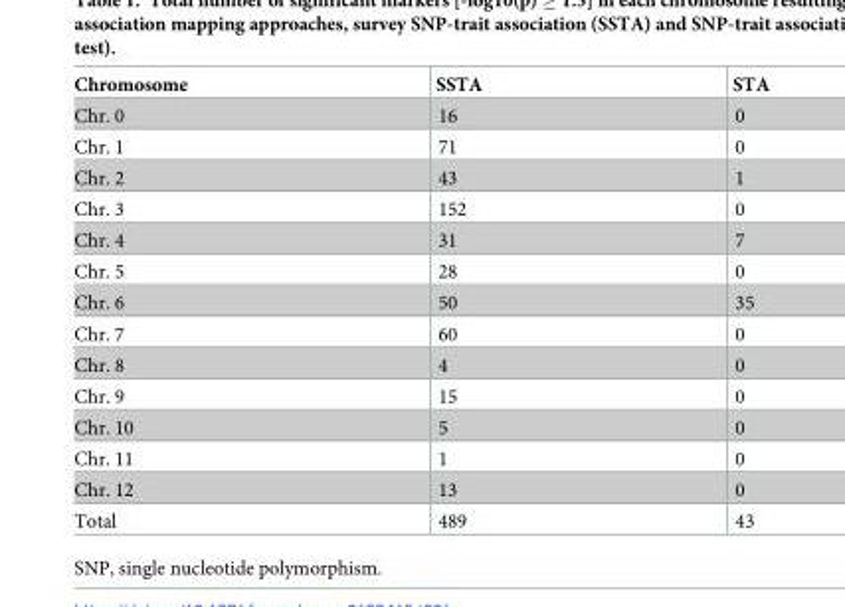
<table><thead><tr><td>Chromosome</td><td>SSTA</td><td>STA</td></tr></thead><tbody><tr><td>Chr. 0</td><td>16</td><td>0</td></tr><tr><td>Chr. 1</td><td>71</td><td>0</td></tr><tr><td>Chr. 2</td><td>43</td><td>1</td></tr><tr><td>Chr. 3</td><td>152</td><td>0</td></tr><tr><td>Chr. 4</td><td>31</td><td>7</td></tr><tr><td>Chr. 5</td><td>28</td><td>0</td></tr><tr><td>Chr. 6</td><td>50</td><td>35</td></tr><tr><td>Chr. 7</td><td>60</td><td>0</td></tr><tr><td>Chr. 8</td><td>4</td><td>0</td></tr><tr><td>Chr. 9</td><td>15</td><td>0</td></tr><tr><td>Chr. 10</td><td>5</td><td>0</td></tr><tr><td>Chr. 11</td><td>1</td><td>0</td></tr><tr><td>Chr. 12</td><td>13</td><td>0</td></tr><tr><td>Total</td><td>489</td><td>43</td></tr></tbody></table>